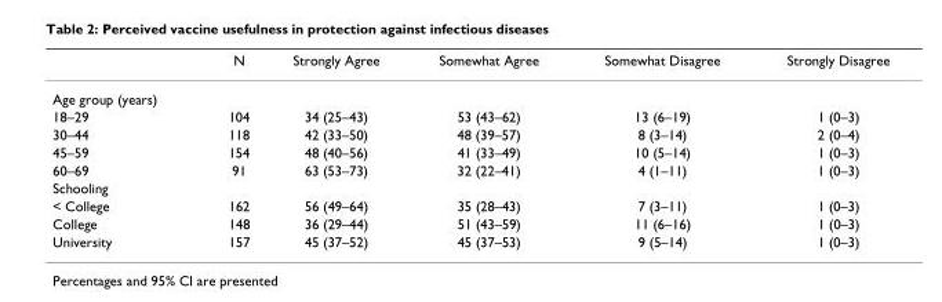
<table><thead><tr><td></td><td>N</td><td>Strongly Agree</td><td>Somewhat Agree</td><td>Somewhat Disagree</td><td>Strongly Disagree</td></tr></thead><tbody><tr><td colspan="6">Age group (years)</td></tr><tr><td>18–29</td><td>104</td><td>34 (25–43)</td><td>53 (43–62)</td><td>13 (6–19)</td><td>1 (0–3)</td></tr><tr><td>30–44</td><td>118</td><td>42 (33–50)</td><td>48 (39–57)</td><td>8 (3–14)</td><td>2 (0–4)</td></tr><tr><td>45–59</td><td>154</td><td>48 (40–56)</td><td>41 (33–49)</td><td>10 (5–14)</td><td>1 (0–3)</td></tr><tr><td>60–69</td><td>91</td><td>63 (53–73)</td><td>32 (22–41)</td><td>4 (1–11)</td><td>1 (0–3)</td></tr><tr><td colspan="6">Schooling</td></tr><tr><td>&lt; College</td><td>162</td><td>56 (49–64)</td><td>35 (28–43)</td><td>7 (3–11)</td><td>1 (0–3)</td></tr><tr><td>College</td><td>148</td><td>36 (29–44)</td><td>51 (43–59)</td><td>11 (6–16)</td><td>1 (0–3)</td></tr><tr><td>University</td><td>157</td><td>45 (37–52)</td><td>45 (37–53)</td><td>9 (5–14)</td><td>1 (0–3)</td></tr></tbody></table>